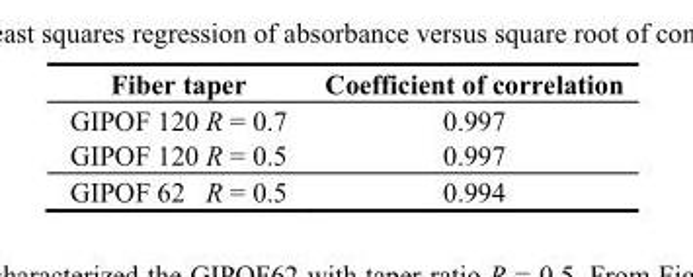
<table><thead><tr><td>Fiber taper</td><td>Coefficient of correlation</td></tr></thead><tbody><tr><td>GIPOF 120 R = 0.7</td><td>0.997</td></tr><tr><td>GIPOF 120 R = 0.5</td><td>0.997</td></tr><tr><td>GIPOF 62 R = 0.5</td><td>0.994</td></tr></tbody></table>